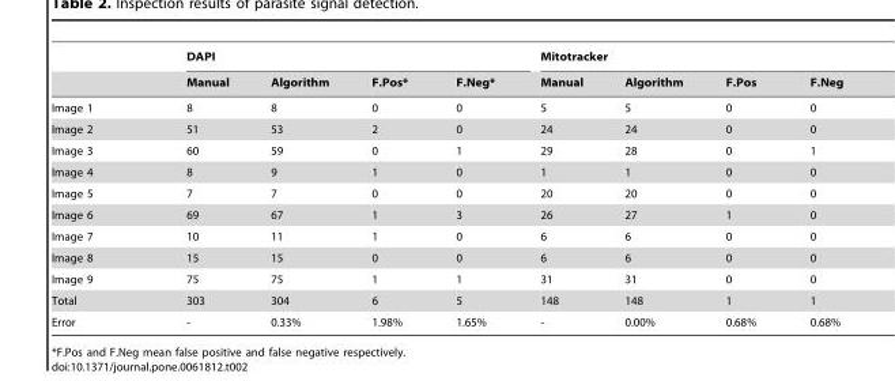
<table><thead><tr><td rowspan="2"></td><td colspan="4">DAPI</td><td colspan="4">Mitotracker</td></tr><tr><td>Manual</td><td>Algorithm</td><td>F.Pos*</td><td>F.Neg*</td><td>Manual</td><td>Algorithm</td><td>F.Pos</td><td>F.Neg</td></tr></thead><tbody><tr><td>Image 1</td><td>8</td><td>8</td><td>0</td><td>0</td><td>5</td><td>5</td><td>0</td><td>0</td></tr><tr><td>Image 2</td><td>51</td><td>53</td><td>2</td><td>0</td><td>24</td><td>24</td><td>0</td><td>0</td></tr><tr><td>Image 3</td><td>60</td><td>59</td><td>0</td><td>1</td><td>29</td><td>28</td><td>0</td><td>1</td></tr><tr><td>Image 4</td><td>8</td><td>9</td><td>1</td><td>0</td><td>1</td><td>1</td><td>0</td><td>0</td></tr><tr><td>Image 5</td><td>7</td><td>7</td><td>0</td><td>0</td><td>20</td><td>20</td><td>0</td><td>0</td></tr><tr><td>Image 6</td><td>69</td><td>67</td><td>1</td><td>3</td><td>26</td><td>27</td><td>1</td><td>0</td></tr><tr><td>Image 7</td><td>10</td><td>11</td><td>1</td><td>0</td><td>6</td><td>6</td><td>0</td><td>0</td></tr><tr><td>Image 8</td><td>15</td><td>15</td><td>0</td><td>0</td><td>6</td><td>6</td><td>0</td><td>0</td></tr><tr><td>Image 9</td><td>75</td><td>75</td><td>1</td><td>1</td><td>31</td><td>31</td><td>0</td><td>0</td></tr><tr><td>Total</td><td>303</td><td>304</td><td>6</td><td>5</td><td>148</td><td>148</td><td>1</td><td>1</td></tr><tr><td>Error</td><td>-</td><td>0.33%</td><td>1.98%</td><td>1.65%</td><td>-</td><td>0.00%</td><td>0.68%</td><td>0.68%</td></tr></tbody></table>